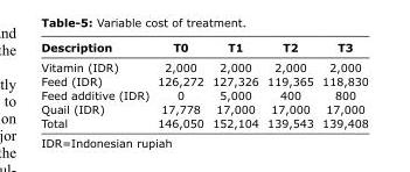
<table><thead><tr><td>Description</td><td>T0</td><td>T1</td><td>T2</td><td>T3</td></tr></thead><tbody><tr><td>Vitamin (IDR)</td><td>2,000</td><td>2,000</td><td>2,000</td><td>2,000</td></tr><tr><td>Feed (IDR)</td><td>126,272</td><td>127,326</td><td>119,365</td><td>118,830</td></tr><tr><td>Feed additive (IDR)</td><td>0</td><td>5,000</td><td>400</td><td>800</td></tr><tr><td>Quail (IDR)</td><td>17,778</td><td>17,000</td><td>17,000</td><td>17,000</td></tr><tr><td>Total</td><td>146,050</td><td>152,104</td><td>139,543</td><td>139,408</td></tr></tbody></table>